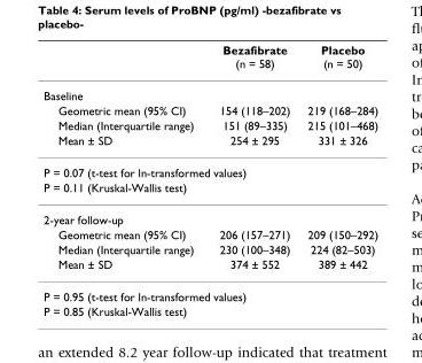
<table><thead><tr><td></td><td>Bezafibrate (n = 58)</td><td>Placebo (n = 50)</td></tr></thead><tbody><tr><td colspan="3">Baseline</td></tr><tr><td>Geometric mean (95% CI)</td><td>154 (118–202)</td><td>219 (168–284)</td></tr><tr><td>Median (Interquartile range)</td><td>151 (89–335)</td><td>215 (101–468)</td></tr><tr><td>Mean ± SD</td><td>254 ± 295</td><td>331 ± 326</td></tr><tr><td colspan="3">P = 0.07 (t-test for ln-transformed values)</td></tr><tr><td colspan="3">P = 0.11 (Kruskal-Wallis test)</td></tr><tr><td colspan="3">2-year follow-up</td></tr><tr><td>Geometric mean (95% CI)</td><td>206 (157–271)</td><td>209 (150–292)</td></tr><tr><td>Median (Interquartile range)</td><td>230 (100–348)</td><td>224 (82–503)</td></tr><tr><td>Mean ± SD</td><td>374 ± 552</td><td>389 ± 442</td></tr><tr><td colspan="3">P = 0.95 (t-test for ln-transformed values)</td></tr><tr><td colspan="3">P = 0.85 (Kruskal-Wallis test)</td></tr></tbody></table>